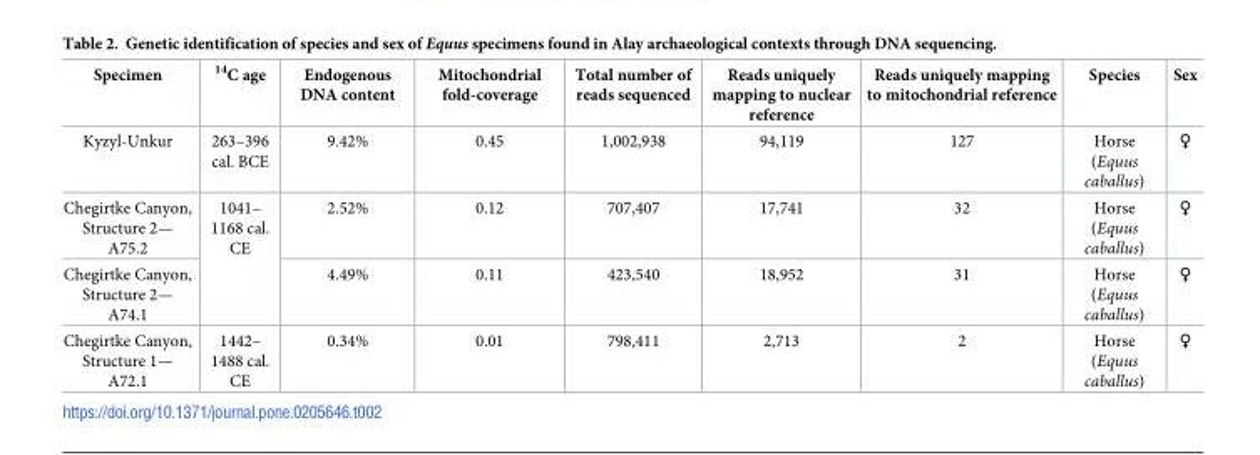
<table><thead><tr><td>Specimen</td><td><sup>14</sup>C age</td><td>Endogenous DNA content</td><td>Mitochondrial fold-coverage</td><td>Total number of reads sequenced</td><td>Reads uniquely mapping to nuclear reference</td><td>Reads uniquely mapping to mitochondrial reference</td><td>Species</td><td>Sex</td></tr></thead><tbody><tr><td>Kyzyl-Unkur</td><td>263–396 cal. BCE</td><td>9.42%</td><td>0.45</td><td>1,002,938</td><td>94,119</td><td>127</td><td>Horse (Equus caballus)</td><td>♀</td></tr><tr><td>Chegirtke Canyon, Structure 2— A75.2</td><td rowspan="2">1041– 1168 cal. CE</td><td>2.52%</td><td>0.12</td><td>707,407</td><td>17,741</td><td>32</td><td>Horse (Equus caballus)</td><td>♀</td></tr><tr><td>Chegirtke Canyon, Structure 2— A74.1</td><td>4.49%</td><td>0.11</td><td>423,540</td><td>18,952</td><td>31</td><td>Horse (Equus caballus)</td><td>♀</td></tr><tr><td>Chegirtke Canyon, Structure 1— A72.1</td><td>1442– 1488 cal. CE</td><td>0.34%</td><td>0.01</td><td>798,411</td><td>2,713</td><td>2</td><td>Horse (Equus caballus)</td><td>♀</td></tr></tbody></table>